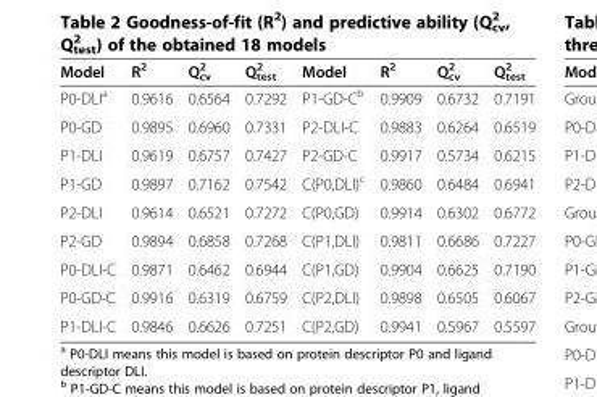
<table><thead><tr><td>Model</td><td>R<sup>2</sup></td><td>Q<sup>2</sup> <sub>cv</sub></td><td>Q<sup>2</sup> <sub>test</sub></td><td>Model</td><td>R<sup>2</sup></td><td>Q<sup>2</sup> <sub>cv</sub></td><td>Q<sup>2</sup> <sub>test</sub></td></tr></thead><tbody><tr><td>P0-DLI<sup>a</sup></td><td>0.9616</td><td>0.6564</td><td>0.7292</td><td>P1-GD-C<sup>b</sup></td><td>0.9909</td><td>0.6732</td><td>0.7191</td></tr><tr><td>P0-GD</td><td>0.9895</td><td>0.6960</td><td>0.7331</td><td>P2-DLI-C</td><td>0.9883</td><td>0.6264</td><td>0.6519</td></tr><tr><td>P1-DLI</td><td>0.9619</td><td>0.6757</td><td>0.7427</td><td>P2-GD-C</td><td>0.9917</td><td>0.5734</td><td>0.6215</td></tr><tr><td>P1-GD</td><td>0.9897</td><td>0.7162</td><td>0.7542</td><td>C(P0,DLI)<sup>c</sup></td><td>0.9860</td><td>0.6484</td><td>0.6941</td></tr><tr><td>P2-DLI</td><td>0.9614</td><td>0.6521</td><td>0.7272</td><td>C(P0,GD)</td><td>0.9914</td><td>0.6302</td><td>0.6772</td></tr><tr><td>P2-GD</td><td>0.9894</td><td>0.6858</td><td>0.7268</td><td>C(P1,DLI)</td><td>0.9811</td><td>0.6686</td><td>0.7227</td></tr><tr><td>P0-DLI-C</td><td>0.9871</td><td>0.6462</td><td>0.6944</td><td>C(P1,GD)</td><td>0.9904</td><td>0.6625</td><td>0.7190</td></tr><tr><td>P0-GD-C</td><td>0.9916</td><td>0.6319</td><td>0.6759</td><td>C(P2,DLI)</td><td>0.9898</td><td>0.6505</td><td>0.6067</td></tr><tr><td>P1-DLI-C</td><td>0.9846</td><td>0.6626</td><td>0.7251</td><td>C(P2,GD)</td><td>0.9941</td><td>0.5967</td><td>0.5597</td></tr></tbody></table>